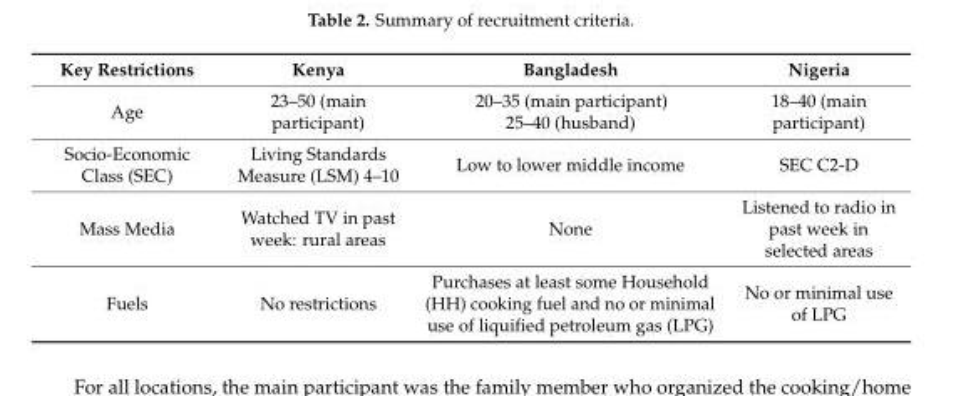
<table><thead><tr><td>Key Restrictions</td><td>Kenya</td><td>Bangladesh</td><td>Nigeria</td></tr></thead><tbody><tr><td>Age</td><td>23–50 (main participant)</td><td>20–35 (main participant) 25–40 (husband)</td><td>18–40 (main participant)</td></tr><tr><td>Socio-Economic Class (SEC)</td><td>Living Standards Measure (LSM) 4–10</td><td>Low to lower middle income</td><td>SEC C2-D</td></tr><tr><td>Mass Media</td><td>Watched TV in past week: rural areas</td><td>None</td><td>Listened to radio in past week in selected areas</td></tr><tr><td>Fuels</td><td>No restrictions</td><td>Purchases at least some Household (HH) cooking fuel and no or minimal use of liquified petroleum gas (LPG)</td><td>No or minimal use of LPG</td></tr></tbody></table>